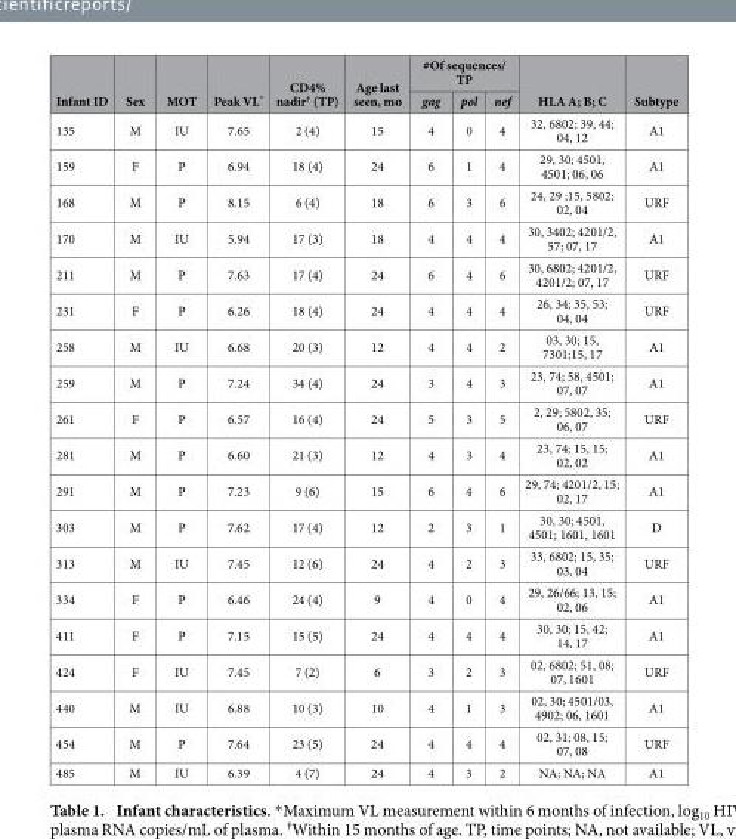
<table><thead><tr><td rowspan="2">Infant ID</td><td rowspan="2">Sex</td><td rowspan="2">MOT</td><td rowspan="2">Peak VL*</td><td rowspan="2">CD4% nadir† (TP)</td><td rowspan="2">Age last seen, mo</td><td colspan="3">#Of sequences/ TP</td><td rowspan="2">HLA A; B; C</td><td rowspan="2">Subtype</td></tr><tr><td>gag</td><td>pol</td><td>nef</td></tr></thead><tbody><tr><td>135</td><td>M</td><td>IU</td><td>7.65</td><td>2 (4)</td><td>15</td><td>4</td><td>0</td><td>4</td><td>32, 6802; 39, 44; 04, 12</td><td>A1</td></tr><tr><td>159</td><td>F</td><td>P</td><td>6.94</td><td>18 (4)</td><td>24</td><td>6</td><td>1</td><td>4</td><td>29, 30; 4501, 4501; 06, 06</td><td>A1</td></tr><tr><td>168</td><td>M</td><td>P</td><td>8.15</td><td>6 (4)</td><td>18</td><td>6</td><td>3</td><td>6</td><td>24, 29 ;15, 5802; 02, 04</td><td>URF</td></tr><tr><td>170</td><td>M</td><td>IU</td><td>5.94</td><td>17 (3)</td><td>18</td><td>4</td><td>4</td><td>4</td><td>30, 3402; 4201/2, 57; 07, 17</td><td>A1</td></tr><tr><td>211</td><td>M</td><td>P</td><td>7.63</td><td>17 (4)</td><td>24</td><td>6</td><td>4</td><td>6</td><td>30, 6802; 4201/2, 4201/2; 07, 17</td><td>URF</td></tr><tr><td>231</td><td>F</td><td>P</td><td>6.26</td><td>18 (4)</td><td>24</td><td>4</td><td>4</td><td>4</td><td>26, 34; 35, 53; 04, 04</td><td>URF</td></tr><tr><td>258</td><td>M</td><td>IU</td><td>6.68</td><td>20 (3)</td><td>12</td><td>4</td><td>4</td><td>2</td><td>03, 30; 15, 7301;15, 17</td><td>A1</td></tr><tr><td>259</td><td>M</td><td>P</td><td>7.24</td><td>34 (4)</td><td>24</td><td>3</td><td>4</td><td>3</td><td>23, 74; 58, 4501; 07, 07</td><td>A1</td></tr><tr><td>261</td><td>F</td><td>P</td><td>6.57</td><td>16 (4)</td><td>24</td><td>5</td><td>3</td><td>5</td><td>2, 29; 5802, 35; 06, 07</td><td>URF</td></tr><tr><td>281</td><td>M</td><td>P</td><td>6.60</td><td>21 (3)</td><td>12</td><td>4</td><td>3</td><td>4</td><td>23, 74; 15, 15; 02, 02</td><td>A1</td></tr><tr><td>291</td><td>M</td><td>P</td><td>7.23</td><td>9 (6)</td><td>15</td><td>6</td><td>4</td><td>6</td><td>29, 74; 4201/2, 15; 02, 17</td><td>A1</td></tr><tr><td>303</td><td>M</td><td>P</td><td>7.62</td><td>17 (4)</td><td>12</td><td>2</td><td>3</td><td>1</td><td>30, 30; 4501, 4501; 1601, 1601</td><td>D</td></tr><tr><td>313</td><td>M</td><td>IU</td><td>7.45</td><td>12 (6)</td><td>24</td><td>4</td><td>2</td><td>3</td><td>33, 6802; 15, 35; 03, 04</td><td>URF</td></tr><tr><td>334</td><td>F</td><td>P</td><td>6.46</td><td>24 (4)</td><td>9</td><td>4</td><td>0</td><td>4</td><td>29, 26/66; 13, 15; 02, 06</td><td>A1</td></tr><tr><td>411</td><td>F</td><td>P</td><td>7.15</td><td>15 (5)</td><td>24</td><td>4</td><td>4</td><td>4</td><td>30, 30; 15, 42; 14, 17</td><td>A1</td></tr><tr><td>424</td><td>F</td><td>IU</td><td>7.45</td><td>7 (2)</td><td>6</td><td>3</td><td>2</td><td>3</td><td>02, 6802; 51, 08; 07, 1601</td><td>URF</td></tr><tr><td>440</td><td>M</td><td>IU</td><td>6.88</td><td>10 (3)</td><td>10</td><td>4</td><td>1</td><td>3</td><td>02, 30; 4501/03, 4902; 06, 1601</td><td>A1</td></tr><tr><td>454</td><td>M</td><td>P</td><td>7.64</td><td>23 (5)</td><td>24</td><td>4</td><td>4</td><td>4</td><td>02, 31; 08, 15; 07, 08</td><td>URF</td></tr><tr><td>485</td><td>M</td><td>IU</td><td>6.39</td><td>4 (7)</td><td>24</td><td>4</td><td>3</td><td>2</td><td>NA; NA; NA</td><td>A1</td></tr></tbody></table>